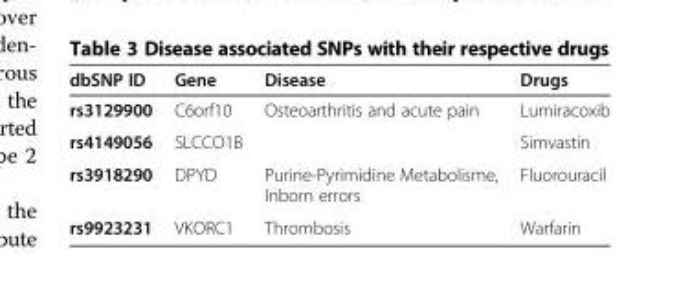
<table><thead><tr><td>dbSNP ID</td><td>Gene</td><td>Disease</td><td>Drugs</td></tr></thead><tbody><tr><td>rs3129900</td><td>C6orf10</td><td>Osteoarthritis and acute pain</td><td>Lumiracoxib</td></tr><tr><td>rs4149056</td><td>SLCCO1B</td><td></td><td>Simvastin</td></tr><tr><td>rs3918290</td><td>DPYD</td><td>Purine-Pyrimidine Metabolisme, Inborn errors</td><td>Fluorouracil</td></tr><tr><td>rs9923231</td><td>VKORC1</td><td>Thrombosis</td><td>Warfarin</td></tr></tbody></table>